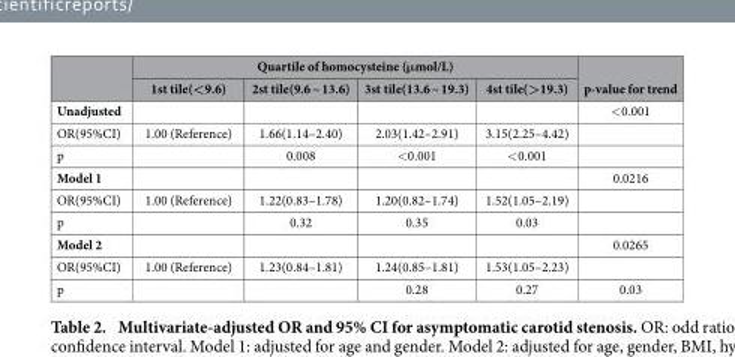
<table><thead><tr><td rowspan="2"></td><td colspan="4">Quartile of homocysteine (μmol/L)</td><td rowspan="2">p-value for trend</td></tr><tr><td>1st tile(&lt;9.6)</td><td>2st tile(9.6 ~ 13.6)</td><td>3st tile(13.6 ~ 19.3)</td><td>4st tile(&gt;19.3)</td></tr></thead><tbody><tr><td>Unadjusted</td><td></td><td></td><td></td><td></td><td>&lt; 0.001</td></tr><tr><td>OR(95%CI)</td><td>1.00 (Reference)</td><td>1.66(1.14–2.40)</td><td>2.03(1.42–2.91)</td><td>3.15(2.25–4.42)</td><td></td></tr><tr><td>p</td><td></td><td>0.008</td><td>&lt; 0.001</td><td>&lt; 0.001</td><td></td></tr><tr><td>Model 1</td><td></td><td></td><td></td><td></td><td>0.0216</td></tr><tr><td>OR(95%CI)</td><td>1.00 (Reference)</td><td>1.22(0.83–1.78)</td><td>1.20(0.82–1.74)</td><td>1.52(1.05–2.19)</td><td></td></tr><tr><td>p</td><td></td><td>0.32</td><td>0.35</td><td>0.03</td><td></td></tr><tr><td>Model 2</td><td></td><td></td><td></td><td></td><td>0.0265</td></tr><tr><td>OR(95%CI)</td><td>1.00 (Reference)</td><td>1.23(0.84–1.81)</td><td>1.24(0.85–1.81)</td><td>1.53(1.05–2.23)</td><td></td></tr><tr><td>p</td><td></td><td></td><td>0.28</td><td>0.27</td><td>0.03</td></tr></tbody></table>